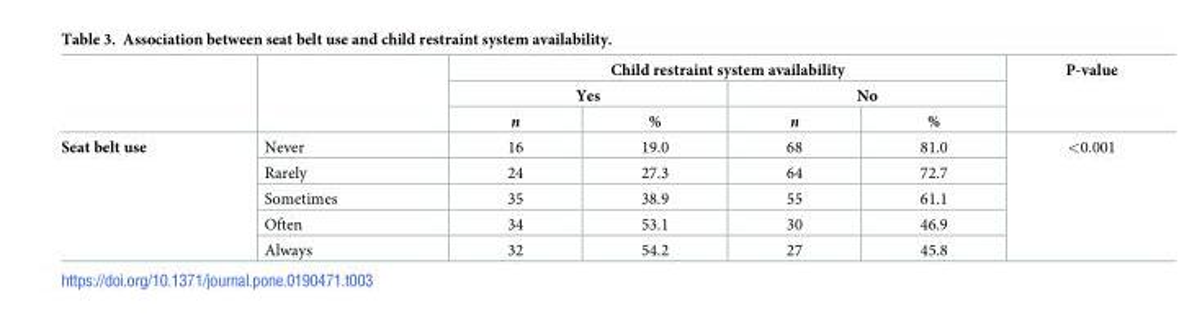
<table><thead><tr><td rowspan="3"></td><td rowspan="3"></td><td colspan="4">Child restraint system availability</td><td rowspan="3">P-value</td></tr><tr><td colspan="2">Yes</td><td colspan="2">No</td></tr><tr><td>n</td><td>%</td><td>n</td><td>%</td></tr></thead><tbody><tr><td rowspan="5">Seat belt use</td><td>Never</td><td>16</td><td>19.0</td><td>68</td><td>81.0</td><td rowspan="5">&lt;0.001</td></tr><tr><td>Rarely</td><td>24</td><td>27.3</td><td>64</td><td>72.7</td></tr><tr><td>Sometimes</td><td>35</td><td>38.9</td><td>55</td><td>61.1</td></tr><tr><td>Often</td><td>34</td><td>53.1</td><td>30</td><td>46.9</td></tr><tr><td>Always</td><td>32</td><td>54.2</td><td>27</td><td>45.8</td></tr></tbody></table>